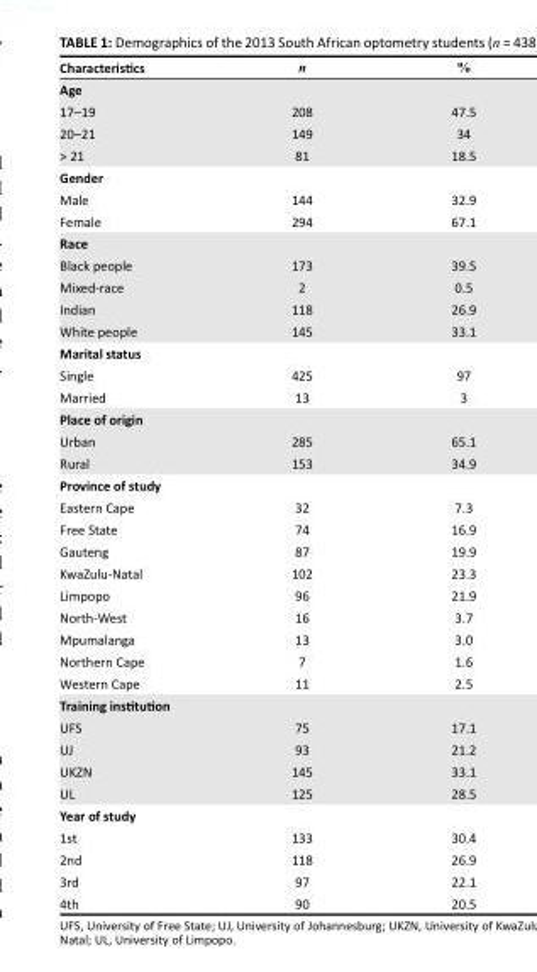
<table><thead><tr><td>Characteristics</td><td>n</td><td>%</td></tr></thead><tbody><tr><td colspan="3">Age</td></tr><tr><td>17–19</td><td>208</td><td>47.5</td></tr><tr><td>20–21</td><td>149</td><td>34</td></tr><tr><td>&gt; 21</td><td>81</td><td>18.5</td></tr><tr><td colspan="3">Gender</td></tr><tr><td>Male</td><td>144</td><td>32.9</td></tr><tr><td>Female</td><td>294</td><td>67.1</td></tr><tr><td colspan="3">Race</td></tr><tr><td>Black people</td><td>173</td><td>39.5</td></tr><tr><td>Mixed-race</td><td>2</td><td>0.5</td></tr><tr><td>Indian</td><td>118</td><td>26.9</td></tr><tr><td>White people</td><td>145</td><td>33.1</td></tr><tr><td colspan="3">Marital status</td></tr><tr><td>Single</td><td>425</td><td>97</td></tr><tr><td>Married</td><td>13</td><td>3</td></tr><tr><td colspan="3">Place of origin</td></tr><tr><td>Urban</td><td>285</td><td>65.1</td></tr><tr><td>Rural</td><td>153</td><td>34.9</td></tr><tr><td colspan="3">Province of study</td></tr><tr><td>Eastern Cape</td><td>32</td><td>7.3</td></tr><tr><td>Free State</td><td>74</td><td>16.9</td></tr><tr><td>Gauteng</td><td>87</td><td>19.9</td></tr><tr><td>KwaZulu-Natal</td><td>102</td><td>23.3</td></tr><tr><td>Limpopo</td><td>96</td><td>21.9</td></tr><tr><td>North-West</td><td>16</td><td>3.7</td></tr><tr><td>Mpumalanga</td><td>13</td><td>3.0</td></tr><tr><td>Northern Cape</td><td>7</td><td>1.6</td></tr><tr><td>Western Cape</td><td>11</td><td>2.5</td></tr><tr><td colspan="3">Training institution</td></tr><tr><td>UFS</td><td>75</td><td>17.1</td></tr><tr><td>UJ</td><td>93</td><td>21.2</td></tr><tr><td>UKZN</td><td>145</td><td>33.1</td></tr><tr><td>UL</td><td>125</td><td>28.5</td></tr><tr><td colspan="3">Year of study</td></tr><tr><td>1st</td><td>133</td><td>30.4</td></tr><tr><td>2nd</td><td>118</td><td>26.9</td></tr><tr><td>3rd</td><td>97</td><td>22.1</td></tr><tr><td>4th</td><td>90</td><td>20.5</td></tr></tbody></table>